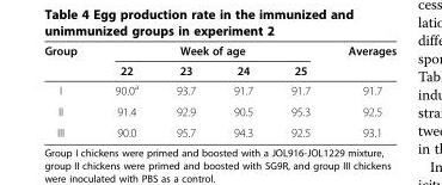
<table><thead><tr><td rowspan="2">Group</td><td colspan="4">Week of age</td><td rowspan="2">Averages</td></tr><tr><td>22</td><td>23</td><td>24</td><td>25</td></tr></thead><tbody><tr><td>I</td><td>90.0<sup>a</sup></td><td>93.7</td><td>91.7</td><td>91.7</td><td>91.7</td></tr><tr><td>II</td><td>91.4</td><td>92.9</td><td>90.5</td><td>95.3</td><td>92.5</td></tr><tr><td>III</td><td>90.0</td><td>95.7</td><td>94.3</td><td>92.5</td><td>93.1</td></tr></tbody></table>